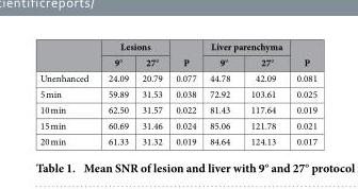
<table><thead><tr><td rowspan="2"></td><td colspan="2">Lesions</td><td rowspan="2">P</td><td colspan="2">Liver parenchyma</td><td rowspan="2">P</td></tr><tr><td>9°</td><td>27°</td><td>9°</td><td>27°</td></tr></thead><tbody><tr><td>Unenhanced</td><td>24.09</td><td>20.79</td><td>0.077</td><td>44.78</td><td>42.09</td><td>0.081</td></tr><tr><td>5 min</td><td>59.89</td><td>31.53</td><td>0.038</td><td>72.92</td><td>103.61</td><td>0.025</td></tr><tr><td>10 min</td><td>62.50</td><td>31.57</td><td>0.022</td><td>81.43</td><td>117.64</td><td>0.019</td></tr><tr><td>15 min</td><td>60.69</td><td>31.46</td><td>0.024</td><td>85.06</td><td>121.78</td><td>0.021</td></tr><tr><td>20 min</td><td>61.33</td><td>31.32</td><td>0.019</td><td>84.64</td><td>124.13</td><td>0.017</td></tr></tbody></table>